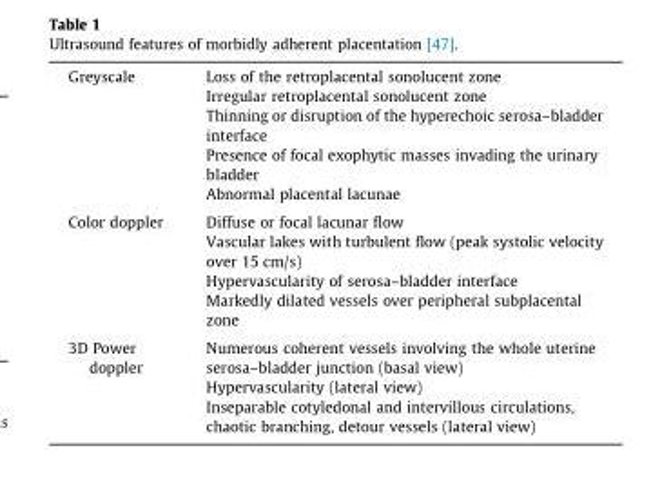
<table><tbody><tr><td rowspan="5">Greyscale</td><td>Loss of the retroplacental sonolucent zone</td></tr><tr><td>Irregular retroplacental sonolucent zone</td></tr><tr><td>Thinning or disruption of the hyperechoic serosa–bladder interface</td></tr><tr><td>Presence of focal exophytic masses invading the urinary bladder</td></tr><tr><td>Abnormal placental lacunae</td></tr><tr><td rowspan="4">Color doppler</td><td>Diffuse or focal lacunar flow</td></tr><tr><td>Vascular lakes with turbulent flow (peak systolic velocity over 15 cm/s)</td></tr><tr><td>Hypervascularity of serosa–bladder interface</td></tr><tr><td>Markedly dilated vessels over peripheral subplacental zone</td></tr><tr><td rowspan="3">3D Power doppler</td><td>Numerous coherent vessels involving the whole uterine serosa–bladder junction (basal view)</td></tr><tr><td>Hypervascularity (lateral view)</td></tr><tr><td>Inseparable cotyledonal and intervillous circulations, chaotic branching, detour vessels (lateral view)</td></tr></tbody></table>